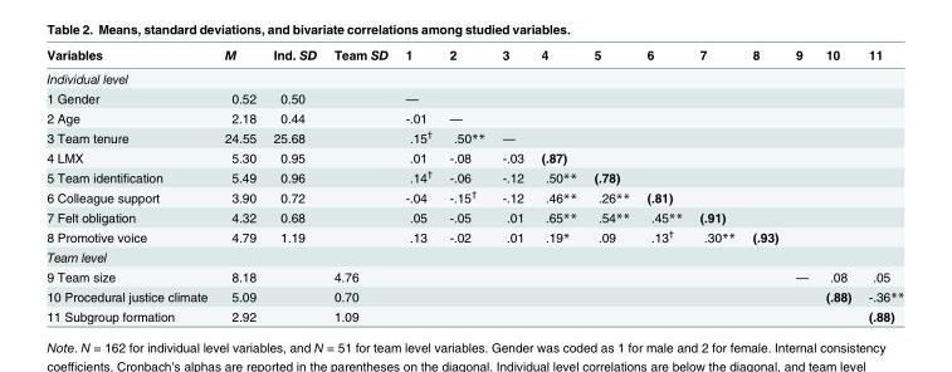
<table><thead><tr><td>Variables</td><td>M</td><td>Ind. SD</td><td>Team SD</td><td>1</td><td>2</td><td>3</td><td>4</td><td>5</td><td>6</td><td>7</td><td>8</td><td>9</td><td>10</td><td>11</td></tr></thead><tbody><tr><td colspan="15">Individual level</td></tr><tr><td>1 Gender</td><td>0.52</td><td>0.50</td><td></td><td>—</td><td></td><td></td><td></td><td></td><td></td><td></td><td></td><td></td><td></td><td></td></tr><tr><td>2 Age</td><td>2.18</td><td>0.44</td><td></td><td>-.01</td><td>—</td><td></td><td></td><td></td><td></td><td></td><td></td><td></td><td></td><td></td></tr><tr><td>3 Team tenure</td><td>24.55</td><td>25.68</td><td></td><td>.15<sup>†</sup></td><td>.50**</td><td>—</td><td></td><td></td><td></td><td></td><td></td><td></td><td></td><td></td></tr><tr><td>4 LMX</td><td>5.30</td><td>0.95</td><td></td><td>.01</td><td>-.08</td><td>-.03</td><td>(.87)</td><td></td><td></td><td></td><td></td><td></td><td></td><td></td></tr><tr><td>5 Team identification</td><td>5.49</td><td>0.96</td><td></td><td>.14<sup>†</sup></td><td>-.06</td><td>-.12</td><td>.50**</td><td>(.78)</td><td></td><td></td><td></td><td></td><td></td><td></td></tr><tr><td>6 Colleague support</td><td>3.90</td><td>0.72</td><td></td><td>-.04</td><td>-.15<sup>†</sup></td><td>-.12</td><td>.46**</td><td>.26**</td><td>(.81)</td><td></td><td></td><td></td><td></td><td></td></tr><tr><td>7 Felt obligation</td><td>4.32</td><td>0.68</td><td></td><td>.05</td><td>-.05</td><td>.01</td><td>.65**</td><td>.54**</td><td>.45**</td><td>(.91)</td><td></td><td></td><td></td><td></td></tr><tr><td>8 Promotive voice</td><td>4.79</td><td>1.19</td><td></td><td>.13</td><td>-.02</td><td>.01</td><td>.19*</td><td>.09</td><td>.13<sup>†</sup></td><td>.30**</td><td>(.93)</td><td></td><td></td><td></td></tr><tr><td colspan="15">Team level</td></tr><tr><td>9 Team size</td><td>8.18</td><td></td><td>4.76</td><td></td><td></td><td></td><td></td><td></td><td></td><td></td><td></td><td>—</td><td>.08</td><td>.05</td></tr><tr><td>10 Procedural justice climate</td><td>5.09</td><td></td><td>0.70</td><td></td><td></td><td></td><td></td><td></td><td></td><td></td><td></td><td></td><td>(.88)</td><td>-.36**</td></tr><tr><td>11 Subgroup formation</td><td>2.92</td><td></td><td>1.09</td><td></td><td></td><td></td><td></td><td></td><td></td><td></td><td></td><td></td><td></td><td>(.88)</td></tr></tbody></table>